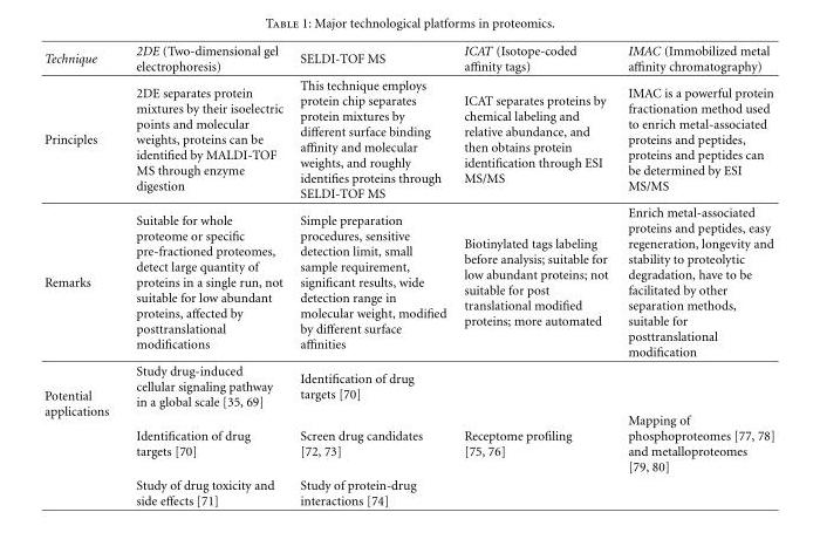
<table><thead><tr><td>Technique</td><td>2DE (Two-dimensional gel electrophoresis)</td><td>SELDI-TOF MS</td><td>ICAT (Isotope-coded affinity tags)</td><td>IMAC (Immobilized metal affinity chromatography)</td></tr></thead><tbody><tr><td>Principles</td><td>2DE separates protein mixtures by their isoelectric points and molecular weights, proteins can be identified by MALDI-TOF MS through enzyme digestion</td><td>This technique employs protein chip separates protein mixtures by different surface binding affinity and molecular weights, and roughly identifies proteins through SELDI-TOF MS</td><td>ICAT separates proteins by chemical labeling and relative abundance, and then obtains protein identification through ESI MS/MS</td><td>IMAC is a powerful protein fractionation method used to enrich metal-associated proteins and peptides, proteins and peptides can be determined by ESI MS/MS</td></tr><tr><td>Remarks</td><td>Suitable for whole proteome or specific pre-fractioned proteomes, detect large quantity of proteins in a single run, not suitable for low abundant proteins, affected by posttranslational modifications</td><td>Simple preparation procedures, sensitive detection limit, small sample requirement, significant results, wide detection range in molecular weight, modified by different surface affinities</td><td>Biotinylated tags labeling before analysis; suitable for low abundant proteins; not suitable for post translational modified proteins; more automated</td><td>Enrich metal-associated proteins and peptides, easy regeneration, longevity and stability to proteolytic degradation, have to be facilitated by other separation methods, suitable for posttranslational modification</td></tr><tr><td rowspan="3">Potential applications</td><td>Study drug-induced cellular signaling pathway in a global scale [35, 69]</td><td>Identification of drug targets [70]</td><td></td><td></td></tr><tr><td>Identification of drug targets [70]</td><td>Screen drug candidates [72, 73]</td><td>Receptome profiling [75, 76]</td><td>Mapping of phosphoproteomes [77, 78] and metalloproteomes [79, 80]</td></tr><tr><td>Study of drug toxicity and side effects [71]</td><td>Study of protein-drug interactions [74]</td><td></td><td></td></tr></tbody></table>